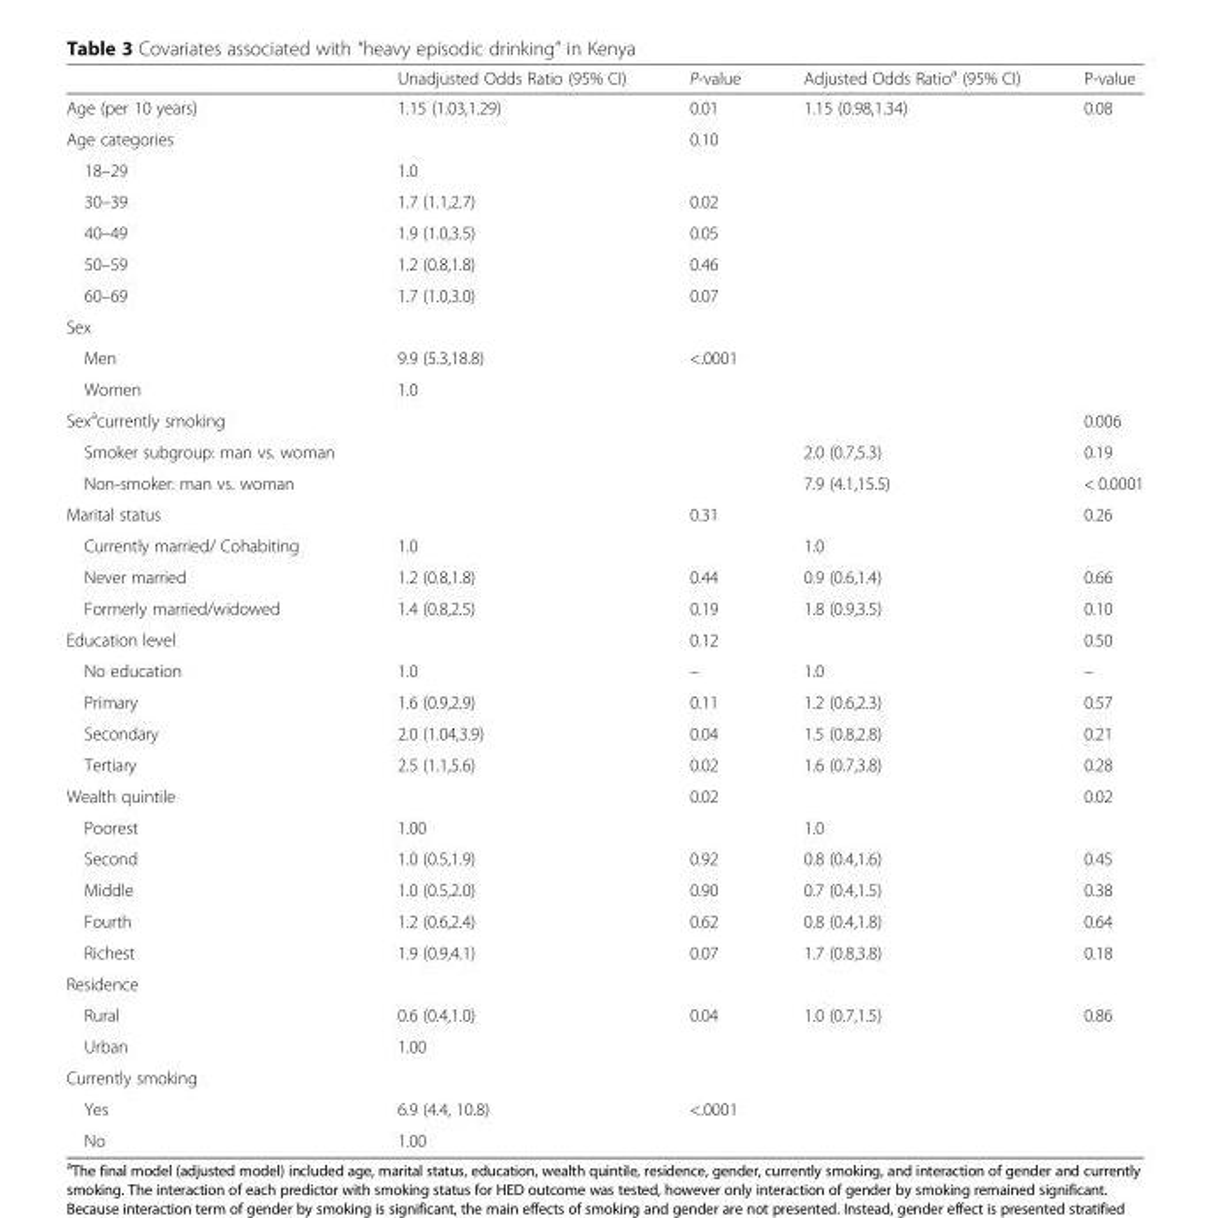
<table><thead><tr><td></td><td>Unadjusted Odds Ratio (95% CI)</td><td>P-value</td><td>Adjusted Odds Ratio<sup>a</sup> (95% CI)</td><td>P-value</td></tr></thead><tbody><tr><td>Age (per 10 years)</td><td>1.15 (1.03,1.29)</td><td>0.01</td><td>1.15 (0.98,1.34)</td><td>0.08</td></tr><tr><td>Age categories</td><td></td><td>0.10</td><td></td><td></td></tr><tr><td>18–29</td><td>1.0</td><td></td><td></td><td></td></tr><tr><td>30–39</td><td>1.7 (1.1,2.7)</td><td>0.02</td><td></td><td></td></tr><tr><td>40–49</td><td>1.9 (1.0,3.5)</td><td>0.05</td><td></td><td></td></tr><tr><td>50–59</td><td>1.2 (0.8,1.8)</td><td>0.46</td><td></td><td></td></tr><tr><td>60–69</td><td>1.7 (1.0,3.0)</td><td>0.07</td><td></td><td></td></tr><tr><td colspan="5">Sex</td></tr><tr><td>Men</td><td>9.9 (5.3,18.8)</td><td>&lt;.0001</td><td></td><td></td></tr><tr><td>Women</td><td>1.0</td><td></td><td></td><td></td></tr><tr><td>Sex<sup>a</sup>currently smoking</td><td></td><td></td><td></td><td>0.006</td></tr><tr><td>Smoker subgroup: man vs. woman</td><td></td><td></td><td>2.0 (0.7,5.3)</td><td>0.19</td></tr><tr><td>Non-smoker: man vs. woman</td><td></td><td></td><td>7.9 (4.1,15.5)</td><td>&lt; 0.0001</td></tr><tr><td>Marital status</td><td></td><td>0.31</td><td></td><td>0.26</td></tr><tr><td>Currently married/ Cohabiting</td><td>1.0</td><td></td><td>1.0</td><td></td></tr><tr><td>Never married</td><td>1.2 (0.8,1.8)</td><td>0.44</td><td>0.9 (0.6,1.4)</td><td>0.66</td></tr><tr><td>Formerly married/widowed</td><td>1.4 (0.8,2.5)</td><td>0.19</td><td>1.8 (0.9,3.5)</td><td>0.10</td></tr><tr><td>Education level</td><td></td><td>0.12</td><td></td><td>0.50</td></tr><tr><td>No education</td><td>1.0</td><td>–</td><td>1.0</td><td>–</td></tr><tr><td>Primary</td><td>1.6 (0.9,2.9)</td><td>0.11</td><td>1.2 (0.6,2.3)</td><td>0.57</td></tr><tr><td>Secondary</td><td>2.0 (1.04,3.9)</td><td>0.04</td><td>1.5 (0.8,2.8)</td><td>0.21</td></tr><tr><td>Tertiary</td><td>2.5 (1.1,5.6)</td><td>0.02</td><td>1.6 (0.7,3.8)</td><td>0.28</td></tr><tr><td>Wealth quintile</td><td></td><td>0.02</td><td></td><td>0.02</td></tr><tr><td>Poorest</td><td>1.00</td><td></td><td>1.0</td><td></td></tr><tr><td>Second</td><td>1.0 (0.5,1.9)</td><td>0.92</td><td>0.8 (0.4,1.6)</td><td>0.45</td></tr><tr><td>Middle</td><td>1.0 (0.5,2.0)</td><td>0.90</td><td>0.7 (0.4,1.5)</td><td>0.38</td></tr><tr><td>Fourth</td><td>1.2 (0.6,2.4)</td><td>0.62</td><td>0.8 (0.4,1.8)</td><td>0.64</td></tr><tr><td>Richest</td><td>1.9 (0.9,4.1)</td><td>0.07</td><td>1.7 (0.8,3.8)</td><td>0.18</td></tr><tr><td colspan="5">Residence</td></tr><tr><td>Rural</td><td>0.6 (0.4,1.0)</td><td>0.04</td><td>1.0 (0.7,1.5)</td><td>0.86</td></tr><tr><td>Urban</td><td>1.00</td><td></td><td></td><td></td></tr><tr><td colspan="5">Currently smoking</td></tr><tr><td>Yes</td><td>6.9 (4.4, 10.8)</td><td>&lt;.0001</td><td></td><td></td></tr><tr><td>No</td><td>1.00</td><td></td><td></td><td></td></tr></tbody></table>